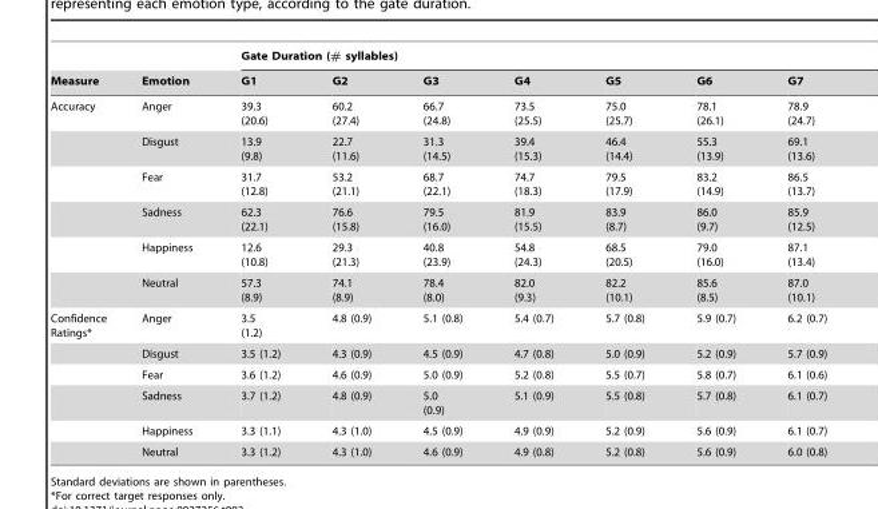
<table><thead><tr><td rowspan="2">Measure</td><td rowspan="2">Emotion</td><td colspan="7">Gate Duration (# syllables)</td></tr><tr><td>G1</td><td>G2</td><td>G3</td><td>G4</td><td>G5</td><td>G6</td><td>G7</td></tr></thead><tbody><tr><td rowspan="6">Accuracy</td><td>Anger</td><td>39.3 (20.6)</td><td>60.2 (27.4)</td><td>66.7 (24.8)</td><td>73.5 (25.5)</td><td>75.0 (25.7)</td><td>78.1 (26.1)</td><td>78.9 (24.7)</td></tr><tr><td>Disgust</td><td>13.9 (9.8)</td><td>22.7 (11.6)</td><td>31.3 (14.5)</td><td>39.4 (15.3)</td><td>46.4 (14.4)</td><td>55.3 (13.9)</td><td>69.1 (13.6)</td></tr><tr><td>Fear</td><td>31.7 (12.8)</td><td>53.2 (21.1)</td><td>68.7 (22.1)</td><td>74.7 (18.3)</td><td>79.5 (17.9)</td><td>83.2 (14.9)</td><td>86.5 (13.7)</td></tr><tr><td>Sadness</td><td>62.3 (22.1)</td><td>76.6 (15.8)</td><td>79.5 (16.0)</td><td>81.9 (15.5)</td><td>83.9 (8.7)</td><td>86.0 (9.7)</td><td>85.9 (12.5)</td></tr><tr><td>Happiness</td><td>12.6 (10.8)</td><td>29.3 (21.3)</td><td>40.8 (23.9)</td><td>54.8 (24.3)</td><td>68.5 (20.5)</td><td>79.0 (16.0)</td><td>87.1 (13.4)</td></tr><tr><td>Neutral</td><td>57.3 (8.9)</td><td>74.1 (8.9)</td><td>78.4 (8.0)</td><td>82.0 (9.3)</td><td>82.2 (10.1)</td><td>85.6 (8.5)</td><td>87.0 (10.1)</td></tr><tr><td rowspan="6">Confidence Ratings*</td><td>Anger</td><td>3.5 (1.2)</td><td>4.8 (0.9)</td><td>5.1 (0.8)</td><td>5.4 (0.7)</td><td>5.7 (0.8)</td><td>5.9 (0.7)</td><td>6.2 (0.7)</td></tr><tr><td>Disgust</td><td>3.5 (1.2)</td><td>4.3 (0.9)</td><td>4.5 (0.9)</td><td>4.7 (0.8)</td><td>5.0 (0.9)</td><td>5.2 (0.9)</td><td>5.7 (0.9)</td></tr><tr><td>Fear</td><td>3.6 (1.2)</td><td>4.6 (0.9)</td><td>5.0 (0.9)</td><td>5.2 (0.8)</td><td>5.5 (0.7)</td><td>5.8 (0.7)</td><td>6.1 (0.6)</td></tr><tr><td>Sadness</td><td>3.7 (1.2)</td><td>4.8 (0.9)</td><td>5.0 (0.9)</td><td>5.1 (0.9)</td><td>5.5 (0.8)</td><td>5.7 (0.8)</td><td>6.1 (0.7)</td></tr><tr><td>Happiness</td><td>3.3 (1.1)</td><td>4.3 (1.0)</td><td>4.5 (0.9)</td><td>4.9 (0.9)</td><td>5.2 (0.9)</td><td>5.6 (0.9)</td><td>6.1 (0.7)</td></tr><tr><td>Neutral</td><td>3.3 (1.2)</td><td>4.3 (1.0)</td><td>4.6 (0.9)</td><td>4.9 (0.8)</td><td>5.2 (0.8)</td><td>5.6 (0.9)</td><td>6.0 (0.8)</td></tr></tbody></table>